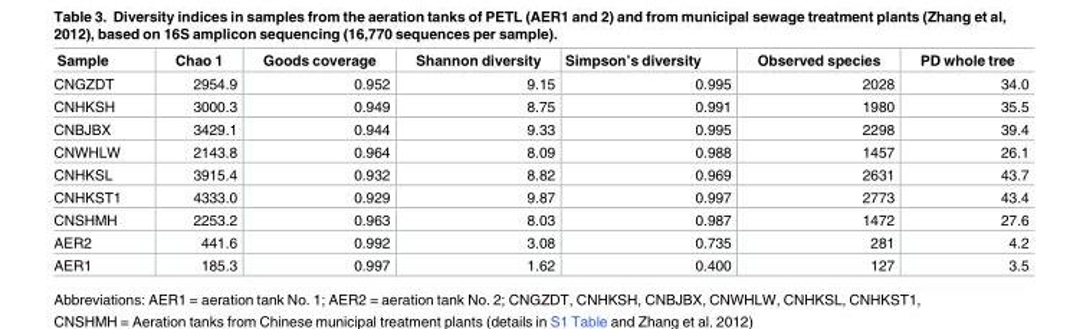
<table><thead><tr><td>Sample</td><td>Chao 1</td><td>Goods coverage</td><td>Shannon diversity</td><td>Simpson’s diversity</td><td>Observed species</td><td>PD whole tree</td></tr></thead><tbody><tr><td>CNGZDT</td><td>2954.9</td><td>0.952</td><td>9.15</td><td>0.995</td><td>2028</td><td>34.0</td></tr><tr><td>CNHKSH</td><td>3000.3</td><td>0.949</td><td>8.75</td><td>0.991</td><td>1980</td><td>35.5</td></tr><tr><td>CNBJBX</td><td>3429.1</td><td>0.944</td><td>9.33</td><td>0.995</td><td>2298</td><td>39.4</td></tr><tr><td>CNWHLW</td><td>2143.8</td><td>0.964</td><td>8.09</td><td>0.988</td><td>1457</td><td>26.1</td></tr><tr><td>CNHKSL</td><td>3915.4</td><td>0.932</td><td>8.82</td><td>0.969</td><td>2631</td><td>43.7</td></tr><tr><td>CNHKST1</td><td>4333.0</td><td>0.929</td><td>9.87</td><td>0.997</td><td>2773</td><td>43.4</td></tr><tr><td>CNSHMH</td><td>2253.2</td><td>0.963</td><td>8.03</td><td>0.987</td><td>1472</td><td>27.6</td></tr><tr><td>AER2</td><td>441.6</td><td>0.992</td><td>3.08</td><td>0.735</td><td>281</td><td>4.2</td></tr><tr><td>AER1</td><td>185.3</td><td>0.997</td><td>1.62</td><td>0.400</td><td>127</td><td>3.5</td></tr></tbody></table>